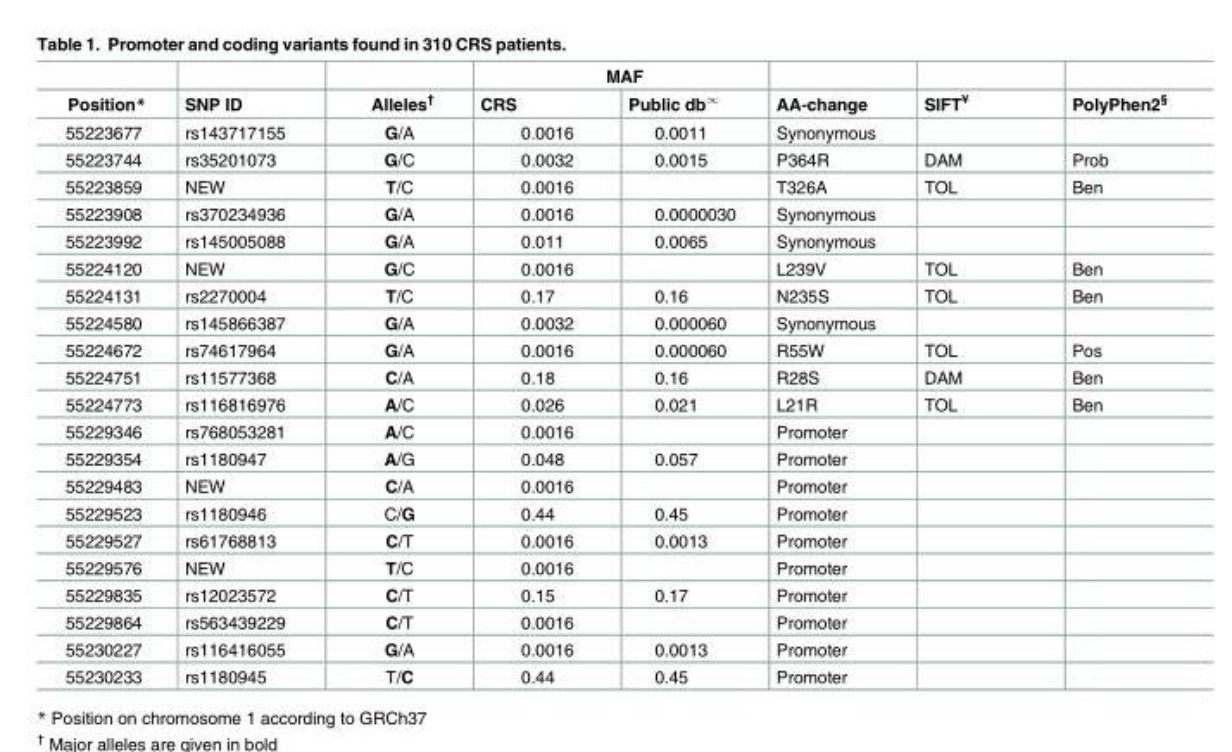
<table><thead><tr><td rowspan="2">Position*</td><td rowspan="2">SNP ID</td><td rowspan="2">Alleles<sup>†</sup></td><td colspan="2">MAF</td><td rowspan="2">AA-change</td><td rowspan="2">SIFT<sup>¥</sup></td><td rowspan="2">PolyPhen2<sup>§</sup></td></tr><tr><td>CRS</td><td>Public db<sup>∞</sup></td></tr></thead><tbody><tr><td>55223677</td><td>rs143717155</td><td>G/A</td><td>0.0016</td><td>0.0011</td><td>Synonymous</td><td></td><td></td></tr><tr><td>55223744</td><td>rs35201073</td><td>G/C</td><td>0.0032</td><td>0.0015</td><td>P364R</td><td>DAM</td><td>Prob</td></tr><tr><td>55223859</td><td>NEW</td><td>T/C</td><td>0.0016</td><td></td><td>T326A</td><td>TOL</td><td>Ben</td></tr><tr><td>55223908</td><td>rs370234936</td><td>G/A</td><td>0.0016</td><td>0.0000030</td><td>Synonymous</td><td></td><td></td></tr><tr><td>55223992</td><td>rs145005088</td><td>G/A</td><td>0.011</td><td>0.0065</td><td>Synonymous</td><td></td><td></td></tr><tr><td>55224120</td><td>NEW</td><td>G/C</td><td>0.0016</td><td></td><td>L239V</td><td>TOL</td><td>Ben</td></tr><tr><td>55224131</td><td>rs2270004</td><td>T/C</td><td>0.17</td><td>0.16</td><td>N235S</td><td>TOL</td><td>Ben</td></tr><tr><td>55224580</td><td>rs145866387</td><td>G/A</td><td>0.0032</td><td>0.000060</td><td>Synonymous</td><td></td><td></td></tr><tr><td>55224672</td><td>rs74617964</td><td>G/A</td><td>0.0016</td><td>0.000060</td><td>R55W</td><td>TOL</td><td>Pos</td></tr><tr><td>55224751</td><td>rs11577368</td><td>C/A</td><td>0.18</td><td>0.16</td><td>R28S</td><td>DAM</td><td>Ben</td></tr><tr><td>55224773</td><td>rs116816976</td><td>A/C</td><td>0.026</td><td>0.021</td><td>L21R</td><td>TOL</td><td>Ben</td></tr><tr><td>55229346</td><td>rs768053281</td><td>A/C</td><td>0.0016</td><td></td><td>Promoter</td><td></td><td></td></tr><tr><td>55229354</td><td>rs1180947</td><td>A/G</td><td>0.048</td><td>0.057</td><td>Promoter</td><td></td><td></td></tr><tr><td>55229483</td><td>NEW</td><td>C/A</td><td>0.0016</td><td></td><td>Promoter</td><td></td><td></td></tr><tr><td>55229523</td><td>rs1180946</td><td>C/G</td><td>0.44</td><td>0.45</td><td>Promoter</td><td></td><td></td></tr><tr><td>55229527</td><td>rs61768813</td><td>C/T</td><td>0.0016</td><td>0.0013</td><td>Promoter</td><td></td><td></td></tr><tr><td>55229576</td><td>NEW</td><td>T/C</td><td>0.0016</td><td></td><td>Promoter</td><td></td><td></td></tr><tr><td>55229835</td><td>rs12023572</td><td>C/T</td><td>0.15</td><td>0.17</td><td>Promoter</td><td></td><td></td></tr><tr><td>55229864</td><td>rs563439229</td><td>C/T</td><td>0.0016</td><td></td><td>Promoter</td><td></td><td></td></tr><tr><td>55230227</td><td>rs116416055</td><td>G/A</td><td>0.0016</td><td>0.0013</td><td>Promoter</td><td></td><td></td></tr><tr><td>55230233</td><td>rs1180945</td><td>T/C</td><td>0.44</td><td>0.45</td><td>Promoter</td><td></td><td></td></tr></tbody></table>